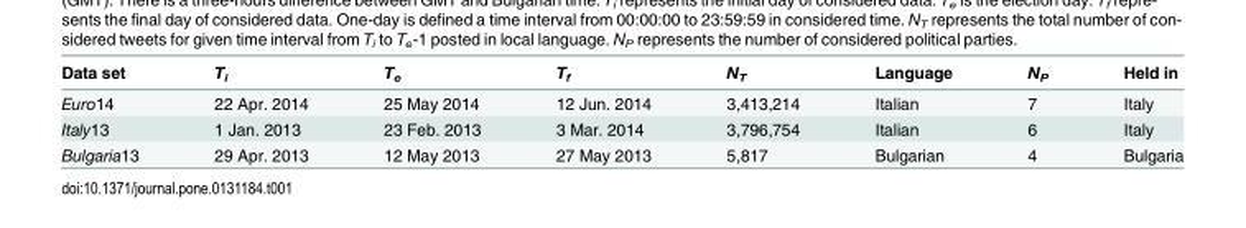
<table><thead><tr><td>Data set</td><td>T<sub>i</sub></td><td>T<sub>e</sub></td><td>T<sub>f</sub></td><td>N<sub>T</sub></td><td>Language</td><td>N<sub>P</sub></td><td>Held in</td></tr></thead><tbody><tr><td>Euro14</td><td>22 Apr. 2014</td><td>25 May 2014</td><td>12 Jun. 2014</td><td>3,413,214</td><td>Italian</td><td>7</td><td>Italy</td></tr><tr><td>Italy13</td><td>1 Jan. 2013</td><td>23 Feb. 2013</td><td>3 Mar. 2014</td><td>3,796,754</td><td>Italian</td><td>6</td><td>Italy</td></tr><tr><td>Bulgaria13</td><td>29 Apr. 2013</td><td>12 May 2013</td><td>27 May 2013</td><td>5,817</td><td>Bulgarian</td><td>4</td><td>Bulgaria</td></tr></tbody></table>